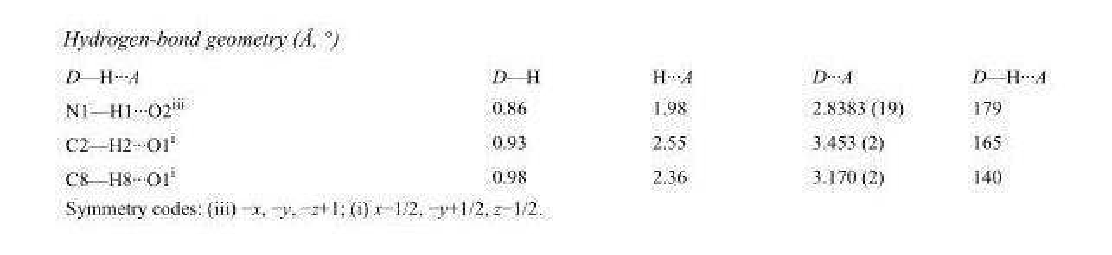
<table><tbody><tr><td>D—H···A</td><td>D—H</td><td>H···A</td><td>D···A</td><td>D—H···A</td></tr><tr><td>N1—H1···O2<sup>iii</sup></td><td>0.86</td><td>1.98</td><td>2.8383 (19)</td><td>179</td></tr><tr><td>C2—H2···O1<sup>i</sup></td><td>0.93</td><td>2.55</td><td>3.453 (2)</td><td>165</td></tr><tr><td>C8—H8···O1<sup>i</sup></td><td>0.98</td><td>2.36</td><td>3.170 (2)</td><td>140</td></tr></tbody></table>